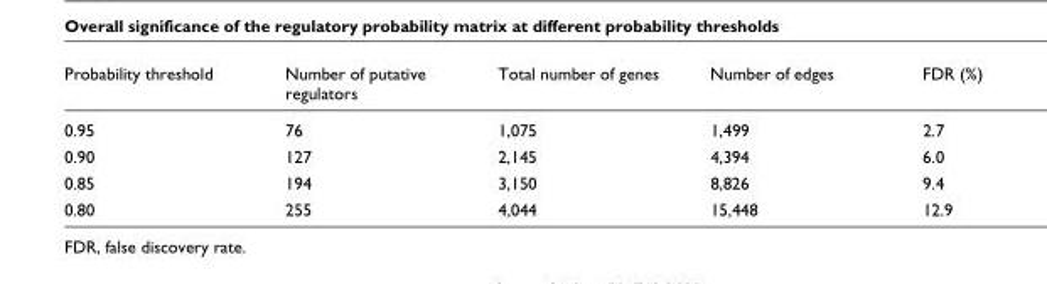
<table><thead><tr><td>Probability threshold</td><td>Number of putative regulators</td><td>Total number of genes</td><td>Number of edges</td><td>FDR (%)</td></tr></thead><tbody><tr><td>0.95</td><td>76</td><td>1,075</td><td>1,499</td><td>2.7</td></tr><tr><td>0.90</td><td>127</td><td>2,145</td><td>4,394</td><td>6.0</td></tr><tr><td>0.85</td><td>194</td><td>3,150</td><td>8,826</td><td>9.4</td></tr><tr><td>0.80</td><td>255</td><td>4,044</td><td>15,448</td><td>12.9</td></tr></tbody></table>